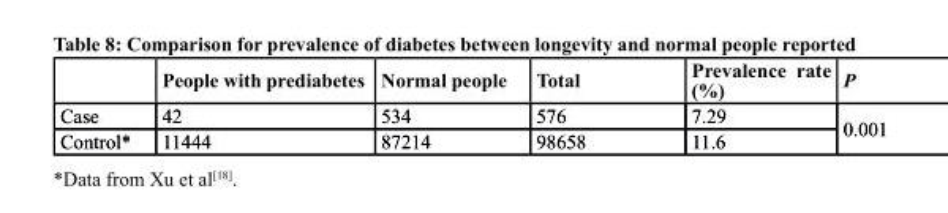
<table><thead><tr><td></td><td>People with prediabetes</td><td>Normal people</td><td>total</td><td>Prevalence rate (%)</td><td>P</td></tr></thead><tbody><tr><td>Case</td><td>42</td><td>534</td><td>576</td><td>7.29</td><td rowspan="2">0.001</td></tr><tr><td>Control*</td><td>11444</td><td>87214</td><td>98658</td><td>11.6</td></tr></tbody></table>